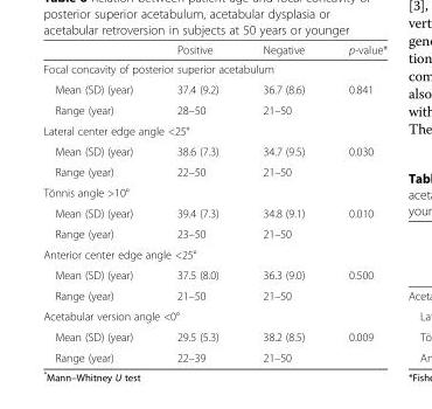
<table><thead><tr><td></td><td>Positive</td><td>Negative</td><td>p-value*</td></tr></thead><tbody><tr><td colspan="4">Focal concavity of posterior superior acetabulum</td></tr><tr><td>Mean (SD) (year)</td><td>37.4 (9.2)</td><td>36.7 (8.6)</td><td>0.841</td></tr><tr><td>Range (year)</td><td>28–50</td><td>21–50</td><td></td></tr><tr><td colspan="4">Lateral center edge angle &lt;25°</td></tr><tr><td>Mean (SD) (year)</td><td>38.6 (7.3)</td><td>34.7 (9.5)</td><td>0.030</td></tr><tr><td>Range (year)</td><td>22–50</td><td>21–50</td><td></td></tr><tr><td colspan="4">Tönnis angle &gt;10°</td></tr><tr><td>Mean (SD) (year)</td><td>39.4 (7.3)</td><td>34.8 (9.1)</td><td>0.010</td></tr><tr><td>Range (year)</td><td>23–50</td><td>21–50</td><td></td></tr><tr><td colspan="4">Anterior center edge angle &lt;25°</td></tr><tr><td>Mean (SD) (year)</td><td>37.5 (8.0)</td><td>36.3 (9.0)</td><td>0.500</td></tr><tr><td>Range (year)</td><td>21–50</td><td>21–50</td><td></td></tr><tr><td colspan="4">Acetabular version angle &lt;0°</td></tr><tr><td>Mean (SD) (year)</td><td>29.5 (5.3)</td><td>38.2 (8.5)</td><td>0.009</td></tr><tr><td>Range (year)</td><td>22–39</td><td>21–50</td><td></td></tr></tbody></table>